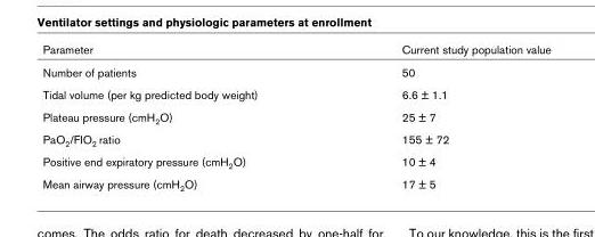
<table><thead><tr><td>Parameter</td><td>Current study population value</td></tr></thead><tbody><tr><td>Number of patients</td><td>50</td></tr><tr><td>Tidal volume (per kg predicted body weight)</td><td>6.6 ± 1.1</td></tr><tr><td>Plateau pressure (cmH<sub>2</sub>O)</td><td>25 ± 7</td></tr><tr><td>PaO<sub>2</sub>/FIO<sub>2</sub> ratio</td><td>155 ± 72</td></tr><tr><td>Positive end expiratory pressure (cmH<sub>2</sub>O)</td><td>10 ± 4</td></tr><tr><td>Mean airway pressure (cmH<sub>2</sub>O)</td><td>17 ± 5</td></tr></tbody></table>